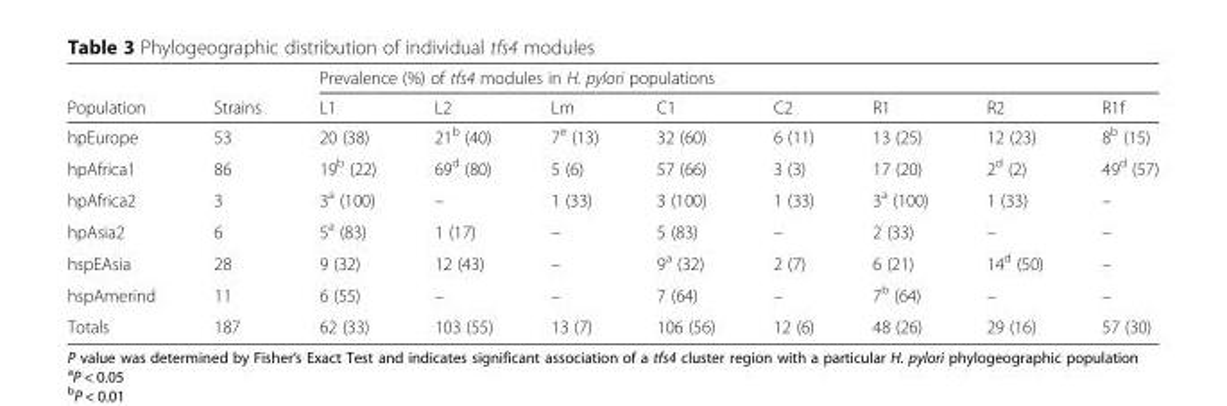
<table><thead><tr><td rowspan="2">Population</td><td rowspan="2">Strains</td><td colspan="8">Prevalence (%) of tfs4 modules in H. pylori populations</td></tr><tr><td>L1</td><td>L2</td><td>Lm</td><td>C1</td><td>C2</td><td>R1</td><td>R2</td><td>R1f</td></tr></thead><tbody><tr><td>hpEurope</td><td>53</td><td>20 (38)</td><td>21<sup>b</sup> (40)</td><td>7<sup>e</sup> (13)</td><td>32 (60)</td><td>6 (11)</td><td>13 (25)</td><td>12 (23)</td><td>8<sup>b</sup> (15)</td></tr><tr><td>hpAfrica1</td><td>86</td><td>19<sup>b</sup> (22)</td><td>69<sup>d</sup> (80)</td><td>5 (6)</td><td>57 (66)</td><td>3 (3)</td><td>17 (20)</td><td>2<sup>d</sup> (2)</td><td>49<sup>d</sup> (57)</td></tr><tr><td>hpAfrica2</td><td>3</td><td>3<sup>a</sup> (100)</td><td>–</td><td>1 (33)</td><td>3 (100)</td><td>1 (33)</td><td>3<sup>a</sup> (100)</td><td>1 (33)</td><td>–</td></tr><tr><td>hpAsia2</td><td>6</td><td>5<sup>a</sup> (83)</td><td>1 (17)</td><td>–</td><td>5 (83)</td><td>–</td><td>2 (33)</td><td>–</td><td>–</td></tr><tr><td>hspEAsia</td><td>28</td><td>9 (32)</td><td>12 (43)</td><td>–</td><td>9<sup>a</sup> (32)</td><td>2 (7)</td><td>6 (21)</td><td>14<sup>d</sup> (50)</td><td>–</td></tr><tr><td>hspAmerind</td><td>11</td><td>6 (55)</td><td>–</td><td>–</td><td>7 (64)</td><td>–</td><td>7<sup>b</sup> (64)</td><td>–</td><td>–</td></tr><tr><td>Totals</td><td>187</td><td>62 (33)</td><td>103 (55)</td><td>13 (7)</td><td>106 (56)</td><td>12 (6)</td><td>48 (26)</td><td>29 (16)</td><td>57 (30)</td></tr></tbody></table>